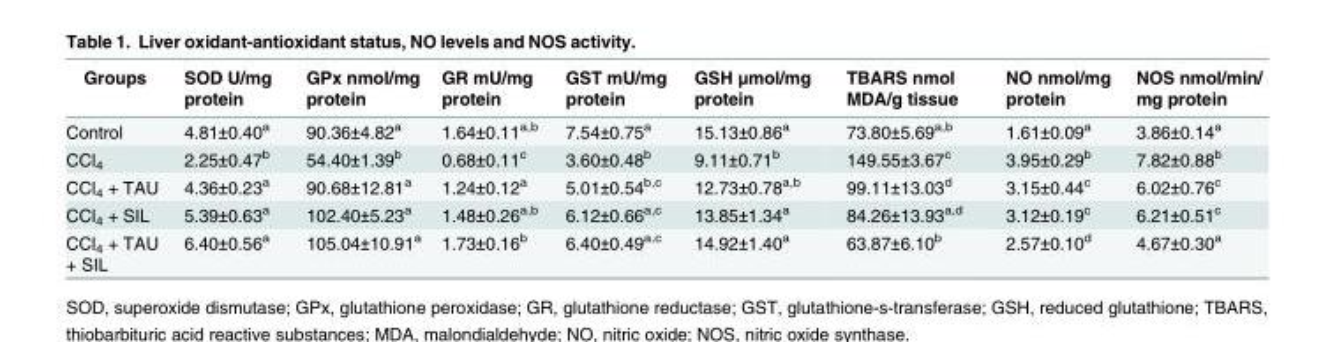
<table><thead><tr><td>Groups</td><td>SOD U/mg protein</td><td>GPx nmol/mg protein</td><td>GR mU/mg protein</td><td>GST mU/mg protein</td><td>GSH μmol/mg protein</td><td>TBARS nmol MDA/g tissue</td><td>NO nmol/mg protein</td><td>NOS nmol/min/ mg protein</td></tr></thead><tbody><tr><td>Control</td><td>4.81±0.40<sup>a</sup></td><td>90.36±4.82<sup>a</sup></td><td>1.64±0.11<sup>a,b</sup></td><td>7.54±0.75<sup>a</sup></td><td>15.13±0.86<sup>a</sup></td><td>73.80±5.69<sup>a,b</sup></td><td>1.61±0.09<sup>a</sup></td><td>3.86±0.14<sup>a</sup></td></tr><tr><td>CCl<sub>4</sub></td><td>2.25±0.47<sup>b</sup></td><td>54.40±1.39<sup>b</sup></td><td>0.68±0.11<sup>c</sup></td><td>3.60±0.48<sup>b</sup></td><td>9.11±0.71<sup>b</sup></td><td>149.55±3.67<sup>c</sup></td><td>3.95±0.29<sup>b</sup></td><td>7.82±0.88<sup>b</sup></td></tr><tr><td>CCl<sub>4</sub> + TAU</td><td>4.36±0.23<sup>a</sup></td><td>90.68±12.81<sup>a</sup></td><td>1.24±0.12<sup>a</sup></td><td>5.01±0.54<sup>b,c</sup></td><td>12.73±0.78<sup>a,b</sup></td><td>99.11±13.03<sup>d</sup></td><td>3.15±0.44<sup>c</sup></td><td>6.02±0.76<sup>c</sup></td></tr><tr><td>CCl<sub>4</sub> + SIL</td><td>5.39±0.63<sup>a</sup></td><td>102.40±5.23<sup>a</sup></td><td>1.48±0.26<sup>a,b</sup></td><td>6.12±0.66<sup>a,c</sup></td><td>13.85±1.34<sup>a</sup></td><td>84.26±13.93<sup>a,d</sup></td><td>3.12±0.19<sup>c</sup></td><td>6.21±0.51<sup>c</sup></td></tr><tr><td>CCl<sub>4</sub> + TAU + SIL</td><td>6.40±0.56<sup>a</sup></td><td>105.04±10.91<sup>a</sup></td><td>1.73±0.16<sup>b</sup></td><td>6.40±0.49<sup>a,c</sup></td><td>14.92±1.40<sup>a</sup></td><td>63.87±6.10<sup>b</sup></td><td>2.57±0.10<sup>d</sup></td><td>4.67±0.30<sup>a</sup></td></tr></tbody></table>